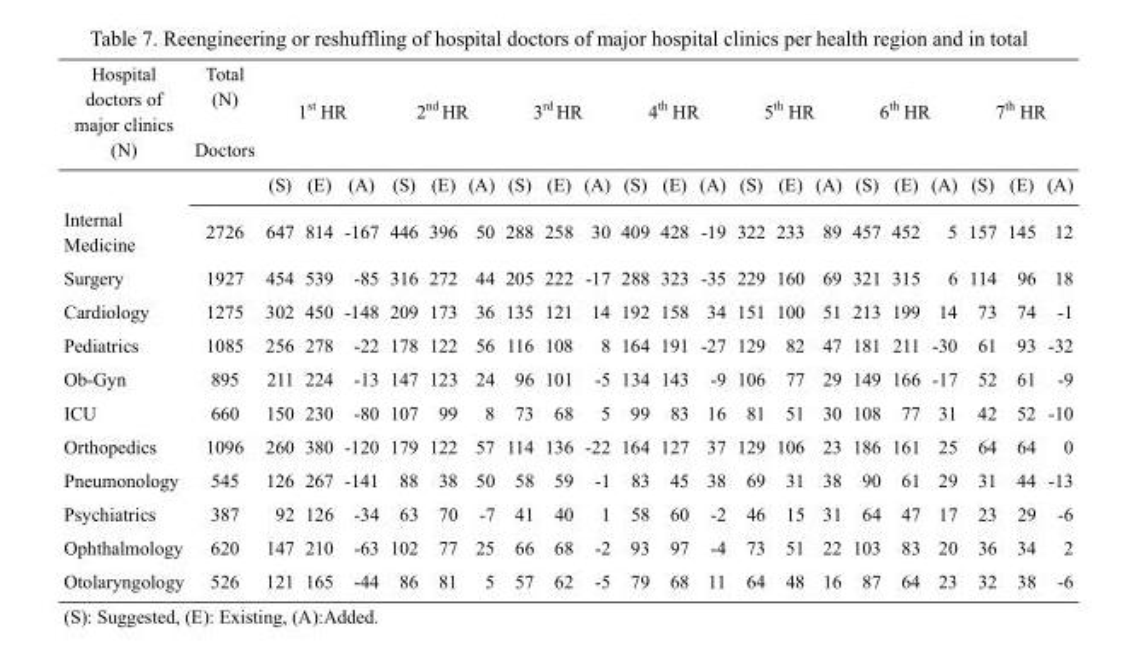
<table><thead><tr><td rowspan="2">Hospital doctors of major clinics (N)</td><td rowspan="2">Total (N) Doctors</td><td colspan="3">1<sup>st</sup> HR</td><td colspan="3">2<sup>nd</sup> HR</td><td colspan="3">3<sup>rd</sup> HR</td><td colspan="3">4<sup>th</sup> HR</td><td colspan="3">5<sup>th</sup> HR</td><td colspan="3">6<sup>th</sup> HR</td><td colspan="3">7<sup>th</sup> HR</td></tr><tr><td>(S)</td><td>(E)</td><td>(A)</td><td>(S)</td><td>(E)</td><td>(A)</td><td>(S)</td><td>(E)</td><td>(A)</td><td>(S)</td><td>(E)</td><td>(A)</td><td>(S)</td><td>(E)</td><td>(A)</td><td>(S)</td><td>(E)</td><td>(A)</td><td>(S)</td><td>(E)</td><td>(A)</td></tr></thead><tbody><tr><td>Internal Medicine</td><td>2726</td><td>647</td><td>814</td><td>-167</td><td>446</td><td>396</td><td>50</td><td>288</td><td>258</td><td>30</td><td>409</td><td>428</td><td>-19</td><td>322</td><td>233</td><td>89</td><td>457</td><td>452</td><td>5</td><td>157</td><td>145</td><td>12</td></tr><tr><td>Surgery</td><td>1927</td><td>454</td><td>539</td><td>-85</td><td>316</td><td>272</td><td>44</td><td>205</td><td>222</td><td>-17</td><td>288</td><td>323</td><td>-35</td><td>229</td><td>160</td><td>69</td><td>321</td><td>315</td><td>6</td><td>114</td><td>96</td><td>18</td></tr><tr><td>Cardiology</td><td>1275</td><td>302</td><td>450</td><td>-148</td><td>209</td><td>173</td><td>36</td><td>135</td><td>121</td><td>14</td><td>192</td><td>158</td><td>34</td><td>151</td><td>100</td><td>51</td><td>213</td><td>199</td><td>14</td><td>73</td><td>74</td><td>-1</td></tr><tr><td>Pediatrics</td><td>1085</td><td>256</td><td>278</td><td>-22</td><td>178</td><td>122</td><td>56</td><td>116</td><td>108</td><td>8</td><td>164</td><td>191</td><td>-27</td><td>129</td><td>82</td><td>47</td><td>181</td><td>211</td><td>-30</td><td>61</td><td>93</td><td>-32</td></tr><tr><td>Ob-Gyn</td><td>895</td><td>211</td><td>224</td><td>-13</td><td>147</td><td>123</td><td>24</td><td>96</td><td>101</td><td>-5</td><td>134</td><td>143</td><td>-9</td><td>106</td><td>77</td><td>29</td><td>149</td><td>166</td><td>-17</td><td>52</td><td>61</td><td>-9</td></tr><tr><td>ICU</td><td>660</td><td>150</td><td>230</td><td>-80</td><td>107</td><td>99</td><td>8</td><td>73</td><td>68</td><td>5</td><td>99</td><td>83</td><td>16</td><td>81</td><td>51</td><td>30</td><td>108</td><td>77</td><td>31</td><td>42</td><td>52</td><td>-10</td></tr><tr><td>Orthopedics</td><td>1096</td><td>260</td><td>380</td><td>-120</td><td>179</td><td>122</td><td>57</td><td>114</td><td>136</td><td>-22</td><td>164</td><td>127</td><td>37</td><td>129</td><td>106</td><td>23</td><td>186</td><td>161</td><td>25</td><td>64</td><td>64</td><td>0</td></tr><tr><td>Pneumonology</td><td>545</td><td>126</td><td>267</td><td>-141</td><td>88</td><td>38</td><td>50</td><td>58</td><td>59</td><td>-1</td><td>83</td><td>45</td><td>38</td><td>69</td><td>31</td><td>38</td><td>90</td><td>61</td><td>29</td><td>31</td><td>44</td><td>-13</td></tr><tr><td>Psychiatrics</td><td>387</td><td>92</td><td>126</td><td>-34</td><td>63</td><td>70</td><td>-7</td><td>41</td><td>40</td><td>1</td><td>58</td><td>60</td><td>-2</td><td>46</td><td>15</td><td>31</td><td>64</td><td>47</td><td>17</td><td>23</td><td>29</td><td>-6</td></tr><tr><td>Ophthalmology</td><td>620</td><td>147</td><td>210</td><td>-63</td><td>102</td><td>77</td><td>25</td><td>66</td><td>68</td><td>-2</td><td>93</td><td>97</td><td>-4</td><td>73</td><td>51</td><td>22</td><td>103</td><td>83</td><td>20</td><td>36</td><td>34</td><td>2</td></tr><tr><td>Otolaryngology</td><td>526</td><td>121</td><td>165</td><td>-44</td><td>86</td><td>81</td><td>5</td><td>57</td><td>62</td><td>-5</td><td>79</td><td>68</td><td>11</td><td>64</td><td>48</td><td>16</td><td>87</td><td>64</td><td>23</td><td>32</td><td>38</td><td>-6</td></tr></tbody></table>